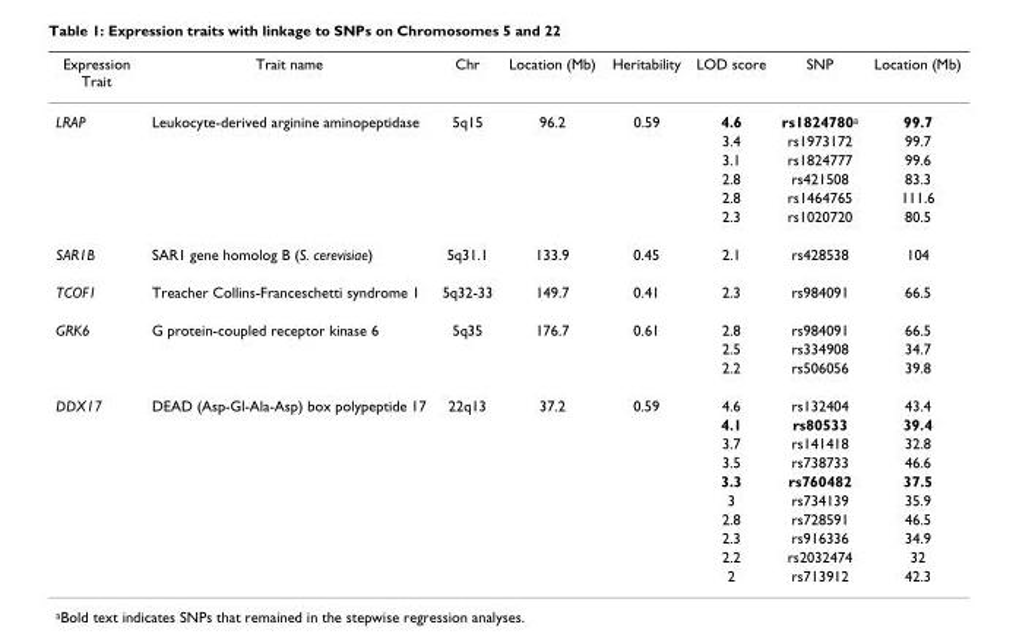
<table><thead><tr><td>Expression Trait</td><td>Trait name</td><td>Chr</td><td>Location (Mb)</td><td>Heritability</td><td>LOD score</td><td>SNP</td><td>Location (Mb)</td></tr></thead><tbody><tr><td rowspan="6">LRAP</td><td>Leukocyte-derived arginine aminopeptidase</td><td>5q15</td><td>96.2</td><td>0.59</td><td>4.6</td><td>rs1824780<sup>a</sup></td><td>99.7</td></tr><tr><td></td><td></td><td></td><td></td><td>3.4</td><td>rs1973172</td><td>99.7</td></tr><tr><td></td><td></td><td></td><td></td><td>3.1</td><td>rs1824777</td><td>99.6</td></tr><tr><td></td><td></td><td></td><td></td><td>2.8</td><td>rs421508</td><td>83.3</td></tr><tr><td></td><td></td><td></td><td></td><td>2.8</td><td>rs1464765</td><td>111.6</td></tr><tr><td></td><td></td><td></td><td></td><td>2.3</td><td>rs1020720</td><td>80.5</td></tr><tr><td>SAR1B</td><td>SAR1 gene homolog B (S. cerevisiae)</td><td>5q31.1</td><td>133.9</td><td>0.45</td><td>2.1</td><td>rs428538</td><td>104</td></tr><tr><td>TCOF1</td><td>Treacher Collins-Franceschetti syndrome 1</td><td>5q32-33</td><td>149.7</td><td>0.41</td><td>2.3</td><td>rs984091</td><td>66.5</td></tr><tr><td rowspan="3">GRK6</td><td>G protein-coupled receptor kinase 6</td><td>5q35</td><td>176.7</td><td>0.61</td><td>2.8</td><td>rs984091</td><td>66.5</td></tr><tr><td></td><td></td><td></td><td></td><td>2.5</td><td>rs334908</td><td>34.7</td></tr><tr><td></td><td></td><td></td><td></td><td>2.2</td><td>rs506056</td><td>39.8</td></tr><tr><td rowspan="10">DDX17</td><td>DEAD (Asp-Gl-Ala-Asp) box polypeptide 17</td><td>22q13</td><td>37.2</td><td>0.59</td><td>4.6</td><td>rs132404</td><td>43.4</td></tr><tr><td></td><td></td><td></td><td></td><td>4.1</td><td>rs80533</td><td>39.4</td></tr><tr><td></td><td></td><td></td><td></td><td>3.7</td><td>rs141418</td><td>32.8</td></tr><tr><td></td><td></td><td></td><td></td><td>3.5</td><td>rs738733</td><td>46.6</td></tr><tr><td></td><td></td><td></td><td></td><td>3.3</td><td>rs760482</td><td>37.5</td></tr><tr><td></td><td></td><td></td><td></td><td>3</td><td>rs734139</td><td>35.9</td></tr><tr><td></td><td></td><td></td><td></td><td>2.8</td><td>rs728591</td><td>46.5</td></tr><tr><td></td><td></td><td></td><td></td><td>2.3</td><td>rs916336</td><td>34.9</td></tr><tr><td></td><td></td><td></td><td></td><td>2.2</td><td>rs2032474</td><td>32</td></tr><tr><td></td><td></td><td></td><td></td><td>2</td><td>rs713912</td><td>42.3</td></tr></tbody></table>